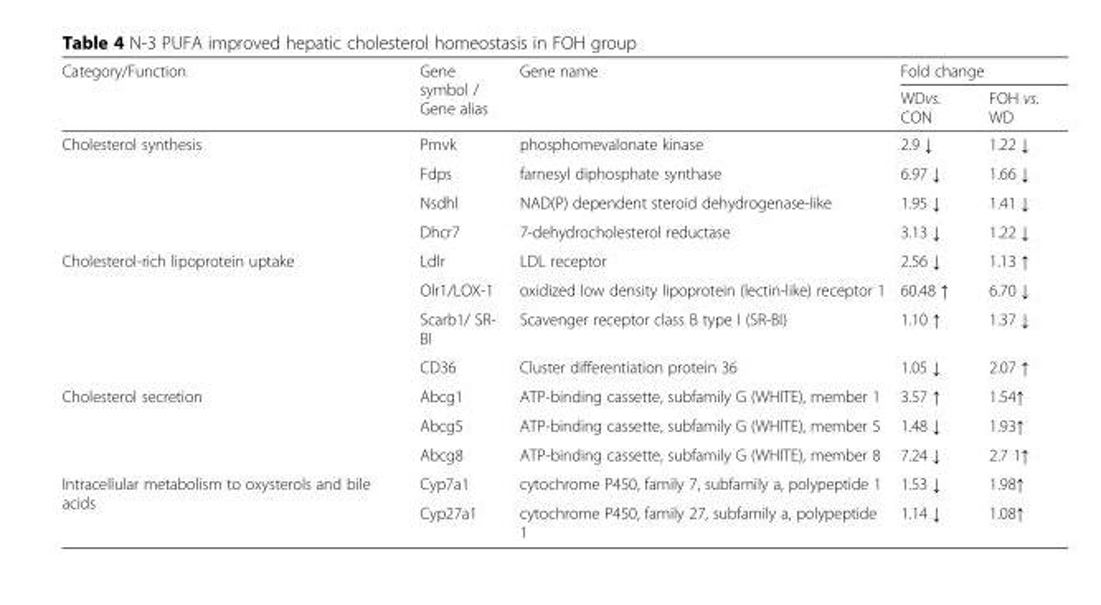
<table><thead><tr><td rowspan="2">Category/Function</td><td rowspan="2">Gene symbol / Gene alias</td><td rowspan="2">Gene name</td><td colspan="2">Fold change</td></tr><tr><td>WDvs. CON</td><td>FOH vs. WD</td></tr></thead><tbody><tr><td rowspan="4">Cholesterol synthesis</td><td>Pmvk</td><td>phosphomevalonate kinase</td><td>2.9 ↓</td><td>1.22 ↓</td></tr><tr><td>Fdps</td><td>farnesyl diphosphate synthase</td><td>6.97 ↓</td><td>1.66 ↓</td></tr><tr><td>Nsdhl</td><td>NAD(P) dependent steroid dehydrogenase-like</td><td>1.95 ↓</td><td>1.41 ↓</td></tr><tr><td>Dhcr7</td><td>7-dehydrocholesterol reductase</td><td>3.13 ↓</td><td>1.22 ↓</td></tr><tr><td rowspan="4">Cholesterol-rich lipoprotein uptake</td><td>Ldlr</td><td>LDL receptor</td><td>2.56 ↓</td><td>1.13 ↑</td></tr><tr><td>Olr1/LOX-1</td><td>oxidized low density lipoprotein (lectin-like) receptor 1</td><td>60.48 ↑</td><td>6.70 ↓</td></tr><tr><td>Scarb1/ SR- BI</td><td>Scavenger receptor class B type I (SR-BI)</td><td>1.10 ↑</td><td>1.37 ↓</td></tr><tr><td>CD36</td><td>Cluster differentiation protein 36</td><td>1.05 ↓</td><td>2.07 ↑</td></tr><tr><td rowspan="3">Cholesterol secretion</td><td>Abcg1</td><td>ATP-binding cassette, subfamily G (WHITE), member 1</td><td>3.57 ↑</td><td>1.54↑</td></tr><tr><td>Abcg5</td><td>ATP-binding cassette, subfamily G (WHITE), member 5</td><td>1.48 ↓</td><td>1.93↑</td></tr><tr><td>Abcg8</td><td>ATP-binding cassette, subfamily G (WHITE), member 8</td><td>7.24 ↓</td><td>2.7 1↑</td></tr><tr><td rowspan="2">Intracellular metabolism to oxysterols and bile acids</td><td>Cyp7a1</td><td>cytochrome P450, family 7, subfamily a, polypeptide 1</td><td>1.53 ↓</td><td>1.98↑</td></tr><tr><td>Cyp27a1</td><td>cytochrome P450, family 27, subfamily a, polypeptide 1</td><td>1.14 ↓</td><td>1.08↑</td></tr></tbody></table>